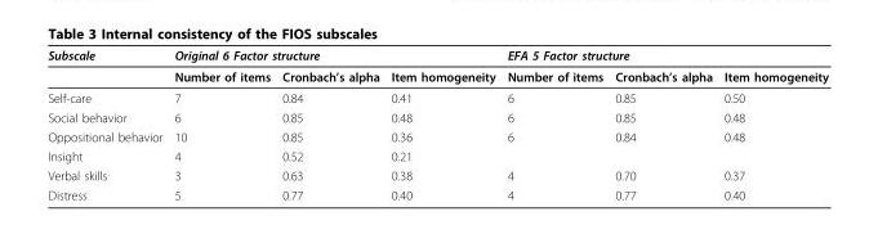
<table><thead><tr><td rowspan="2">Subscale</td><td colspan="3">Original 6 Factor structure</td><td colspan="3">EFA 5 Factor structure</td></tr><tr><td>Number of items</td><td>Cronbach’s alpha</td><td>Item homogeneity</td><td>Number of items</td><td>Cronbach’s alpha</td><td>Item homogeneity</td></tr></thead><tbody><tr><td>Self-care</td><td>7</td><td>0.84</td><td>0.41</td><td>6</td><td>0.85</td><td>0.50</td></tr><tr><td>Social behavior</td><td>6</td><td>0.85</td><td>0.48</td><td>6</td><td>0.85</td><td>0.48</td></tr><tr><td>Oppositional behavior</td><td>10</td><td>0.85</td><td>0.36</td><td>6</td><td>0.84</td><td>0.48</td></tr><tr><td>Insight</td><td>4</td><td>0.52</td><td>0.21</td><td></td><td></td><td></td></tr><tr><td>Verbal skills</td><td>3</td><td>0.63</td><td>0.38</td><td>4</td><td>0.70</td><td>0.37</td></tr><tr><td>Distress</td><td>5</td><td>0.77</td><td>0.40</td><td>4</td><td>0.77</td><td>0.40</td></tr></tbody></table>